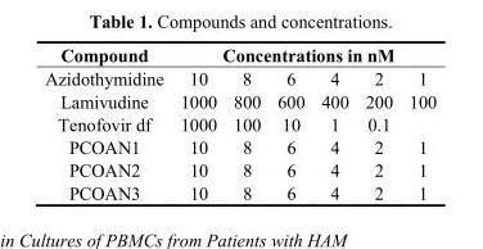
<table><thead><tr><td rowspan="2">Compound Azidothymidine</td><td colspan="6">Concentrations in nM</td></tr><tr><td>10</td><td>8</td><td>6</td><td>4</td><td>2</td><td>1</td></tr></thead><tbody><tr><td>Lamivudine</td><td>1000</td><td>800</td><td>600</td><td>400</td><td>200</td><td>100</td></tr><tr><td>Tenofovir df</td><td>1000</td><td>100</td><td>10</td><td>1</td><td>0.1</td><td></td></tr><tr><td>PCOAN1</td><td>10</td><td>8</td><td>6</td><td>4</td><td>2</td><td>1</td></tr><tr><td>PCOAN2</td><td>10</td><td>8</td><td>6</td><td>4</td><td>2</td><td>1</td></tr><tr><td>PCOAN3</td><td>10</td><td>8</td><td>6</td><td>4</td><td>2</td><td>1</td></tr></tbody></table>